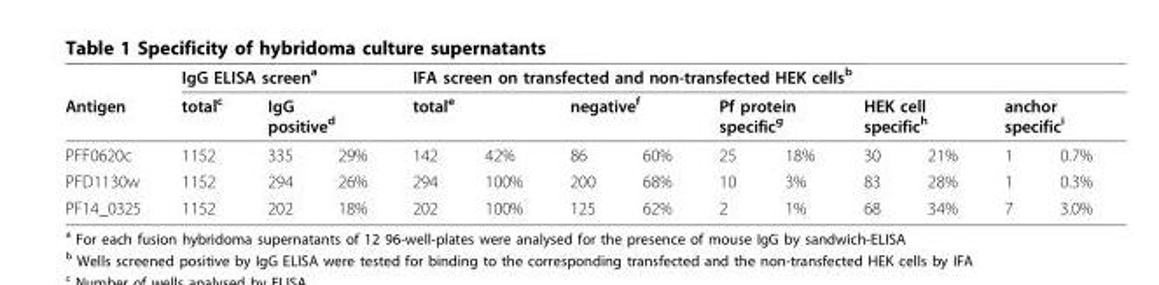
<table><thead><tr><td rowspan="3">Antigen PFF0620c</td><td colspan="3">IgG ELISA screen<sup>a</sup></td><td colspan="10">IFA screen on transfected and non-transfected HEK cells<sup>b</sup></td></tr><tr><td rowspan="2">total<sup>c</sup> 1152</td><td colspan="2">IgG positive<sup>d</sup></td><td colspan="2">total<sup>e</sup></td><td colspan="2">negative<sup>f</sup></td><td colspan="2">Pf protein specific<sup>g</sup></td><td colspan="2">HEK cell specific<sup>h</sup></td><td colspan="2">anchor specific<sup>i</sup></td></tr><tr><td>335</td><td>29%</td><td>142</td><td>42%</td><td>86</td><td>60%</td><td>25</td><td>18%</td><td>30</td><td>21%</td><td>1</td><td>0.7%</td></tr></thead><tbody><tr><td>PFD1130w</td><td>1152</td><td>294</td><td>26%</td><td>294</td><td>100%</td><td>200</td><td>68%</td><td>10</td><td>3%</td><td>83</td><td>28%</td><td>1</td><td>0.3%</td></tr><tr><td>PF14_0325</td><td>1152</td><td>202</td><td>18%</td><td>202</td><td>100%</td><td>125</td><td>62%</td><td>2</td><td>1%</td><td>68</td><td>34%</td><td>7</td><td>3.0%</td></tr></tbody></table>